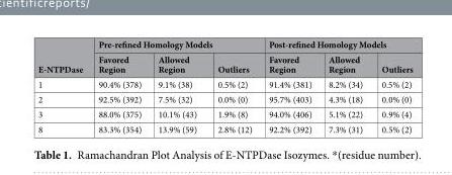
<table><thead><tr><td rowspan="2">E-NTPDase</td><td colspan="3">Pre-refined Homology Models</td><td colspan="3">Post-refined Homology Models</td></tr><tr><td>Favored Region</td><td>Allowed Region</td><td>Outliers</td><td>Favored Region</td><td>Allowed Region</td><td>Outliers</td></tr></thead><tbody><tr><td>1</td><td>90.4% (378)</td><td>9.1% (38)</td><td>0.5% (2)</td><td>91.4% (381)</td><td>8.2% (34)</td><td>0.5% (2)</td></tr><tr><td>2</td><td>92.5% (392)</td><td>7.5% (32)</td><td>0.0% (0)</td><td>95.7% (403)</td><td>4.3% (18)</td><td>0.0% (0)</td></tr><tr><td>3</td><td>88.0% (375)</td><td>10.1% (43)</td><td>1.9% (8)</td><td>94.0% (406)</td><td>5.1% (22)</td><td>0.9% (4)</td></tr><tr><td>8</td><td>83.3% (354)</td><td>13.9% (59)</td><td>2.8% (12)</td><td>92.2% (392)</td><td>7.3% (31)</td><td>0.5% (2)</td></tr></tbody></table>